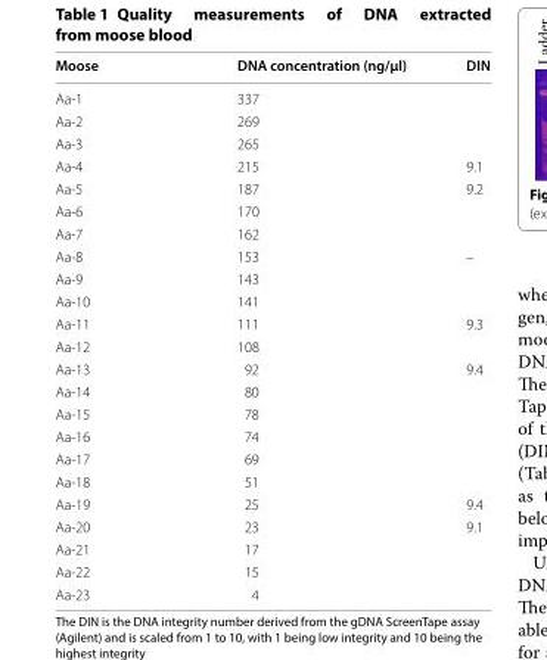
<table><thead><tr><td>Moose</td><td>DNA concentration (ng/µl)</td><td>DIN</td></tr></thead><tbody><tr><td>Aa-1</td><td>337</td><td></td></tr><tr><td>Aa-2</td><td>269</td><td></td></tr><tr><td>Aa-3</td><td>265</td><td></td></tr><tr><td>Aa-4</td><td>215</td><td>9.1</td></tr><tr><td>Aa-5</td><td>187</td><td>9.2</td></tr><tr><td>Aa-6</td><td>170</td><td></td></tr><tr><td>Aa-7</td><td>162</td><td></td></tr><tr><td>Aa-8</td><td>153</td><td>–</td></tr><tr><td>Aa-9</td><td>143</td><td></td></tr><tr><td>Aa-10</td><td>141</td><td></td></tr><tr><td>Aa-11</td><td>111</td><td>9.3</td></tr><tr><td>Aa-12</td><td>108</td><td></td></tr><tr><td>Aa-13</td><td>92</td><td>9.4</td></tr><tr><td>Aa-14</td><td>80</td><td></td></tr><tr><td>Aa-15</td><td>78</td><td></td></tr><tr><td>Aa-16</td><td>74</td><td></td></tr><tr><td>Aa-17</td><td>69</td><td></td></tr><tr><td>Aa-18</td><td>51</td><td></td></tr><tr><td>Aa-19</td><td>25</td><td>9.4</td></tr><tr><td>Aa-20</td><td>23</td><td>9.1</td></tr><tr><td>Aa-21</td><td>17</td><td></td></tr><tr><td>Aa-22</td><td>15</td><td></td></tr><tr><td>Aa-23</td><td>4</td><td></td></tr></tbody></table>